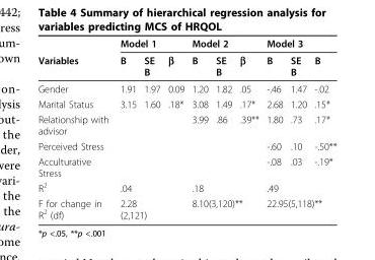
<table><thead><tr><td rowspan="2">Variables</td><td colspan="2">Model 1</td><td rowspan="2">β</td><td colspan="2">Model 2</td><td rowspan="2">β</td><td colspan="2">Model 3</td><td rowspan="2">B</td></tr><tr><td>B</td><td>SE B</td><td>B</td><td>SE B</td><td>B</td><td>SE B</td></tr></thead><tbody><tr><td>Gender</td><td>1.91</td><td>1.97</td><td>0.09</td><td>1.20</td><td>1.82</td><td>.05</td><td>-.46</td><td>1.47</td><td>-.02</td></tr><tr><td>Marital Status</td><td>3.15</td><td>1.60</td><td>.18*</td><td>3.08</td><td>1.49</td><td>.17*</td><td>2.68</td><td>1.20</td><td>.15*</td></tr><tr><td>Relationship with advisor</td><td></td><td></td><td></td><td>3.99</td><td>.86</td><td>.39**</td><td>1.80</td><td>.73</td><td>.17*</td></tr><tr><td>Perceived Stress</td><td></td><td></td><td></td><td></td><td></td><td></td><td>-.60</td><td>.10</td><td>-.50**</td></tr><tr><td>Acculturative Stress</td><td></td><td></td><td></td><td></td><td></td><td></td><td>-.08</td><td>.03</td><td>-.19*</td></tr><tr><td>R<sup>2</sup></td><td>.04</td><td></td><td></td><td>.18</td><td></td><td></td><td>.49</td><td></td><td></td></tr><tr><td>F for change in R<sup>2</sup> (df)</td><td colspan="2">2.28 (2,121)</td><td></td><td colspan="3">8.10(3,120)**</td><td colspan="3">22.95(5,118)**</td></tr></tbody></table>